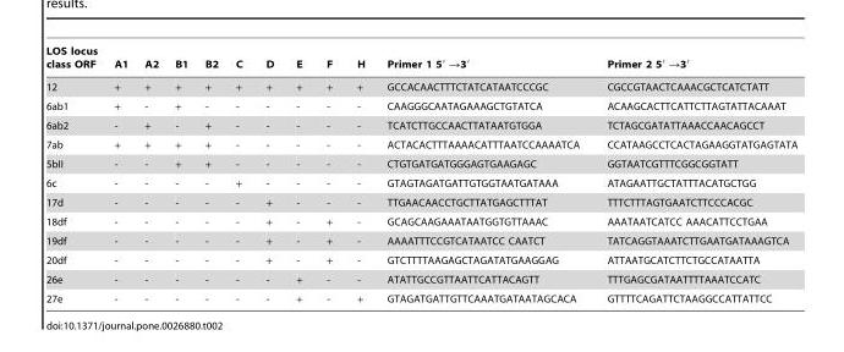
<table><thead><tr><td>LOS locus class ORF</td><td>A1</td><td>A2</td><td>B1</td><td>B2</td><td>C</td><td>D</td><td>E</td><td>F</td><td>H</td><td>Primer 1 5′ →3′</td><td>Primer 2 5′ →3′</td></tr></thead><tbody><tr><td>12</td><td>+</td><td>+</td><td>+</td><td>+</td><td>+</td><td>+</td><td>+</td><td>+</td><td>+</td><td>GCCACAACTTTCTATCATAATCCCGC</td><td>CGCCGTAACTCAAACGCTCATCTATT</td></tr><tr><td>6ab1</td><td>+</td><td>-</td><td>+</td><td>-</td><td>-</td><td>-</td><td>-</td><td>-</td><td>-</td><td>CAAGGGCAATAGAAAGCTGTATCA</td><td>ACAAGCACTTCATTCTTAGTATTACAAAT</td></tr><tr><td>6ab2</td><td>-</td><td>+</td><td>-</td><td>+</td><td>-</td><td>-</td><td>-</td><td>-</td><td>-</td><td>TCATCTTGCCAACTTATAATGTGGA</td><td>TCTAGCGATATTAAACCAACAGCCT</td></tr><tr><td>7ab</td><td>+</td><td>+</td><td>+</td><td>+</td><td>-</td><td>-</td><td>-</td><td>-</td><td>-</td><td>ACTACACTTTAAAACATTTAATCCAAAATCA</td><td>CCATAAGCCTCACTAGAAGGTATGAGTATA</td></tr><tr><td>5bII</td><td>-</td><td>-</td><td>+</td><td>+</td><td>-</td><td>-</td><td>-</td><td>-</td><td>-</td><td>CTGTGATGATGGGAGTGAAGAGC</td><td>GGTAATCGTTTCGGCGGTATT</td></tr><tr><td>6c</td><td>-</td><td>-</td><td>-</td><td>-</td><td>+</td><td>-</td><td>-</td><td>-</td><td>-</td><td>GTAGTAGATGATTGTGGTAATGATAAA</td><td>ATAGAATTGCTATTTACATGCTGG</td></tr><tr><td>17d</td><td>-</td><td>-</td><td>-</td><td>-</td><td>-</td><td>+</td><td>-</td><td>-</td><td>-</td><td>TTGAACAACCTGCTTATGAGCTTTAT</td><td>TTTCTTTAGTGAATCTTCCCACGC</td></tr><tr><td>18df</td><td>-</td><td>-</td><td>-</td><td>-</td><td>-</td><td>+</td><td>-</td><td>+</td><td>-</td><td>GCAGCAAGAAATAATGGTGTTAAAC</td><td>AAATAATCATCC AAACATTCCTGAA</td></tr><tr><td>19df</td><td>-</td><td>-</td><td>-</td><td>-</td><td>-</td><td>+</td><td>-</td><td>+</td><td>-</td><td>AAAATTTCCGTCATAATCC CAATCT</td><td>TATCAGGTAAATCTTGAATGATAAAGTCA</td></tr><tr><td>20df</td><td>-</td><td>-</td><td>-</td><td>-</td><td>-</td><td>+</td><td>-</td><td>+</td><td>-</td><td>GTCTTTTAAGAGCTAGATATGAAGGAG</td><td>ATTAATGCATCTTCTGCCATAATTA</td></tr><tr><td>26e</td><td>-</td><td>-</td><td>-</td><td>-</td><td>-</td><td>-</td><td>+</td><td>-</td><td>-</td><td>ATATTGCCGTTAATTCATTACAGTT</td><td>TTTGAGCGATAATTTTAAATCCATC</td></tr><tr><td>27e</td><td>-</td><td>-</td><td>-</td><td>-</td><td>-</td><td>-</td><td>+</td><td>-</td><td>+</td><td>GTAGATGATTGTTCAAATGATAATAGCACA</td><td>GTTTTCAGATTCTAAGGCCATTATTCC</td></tr></tbody></table>